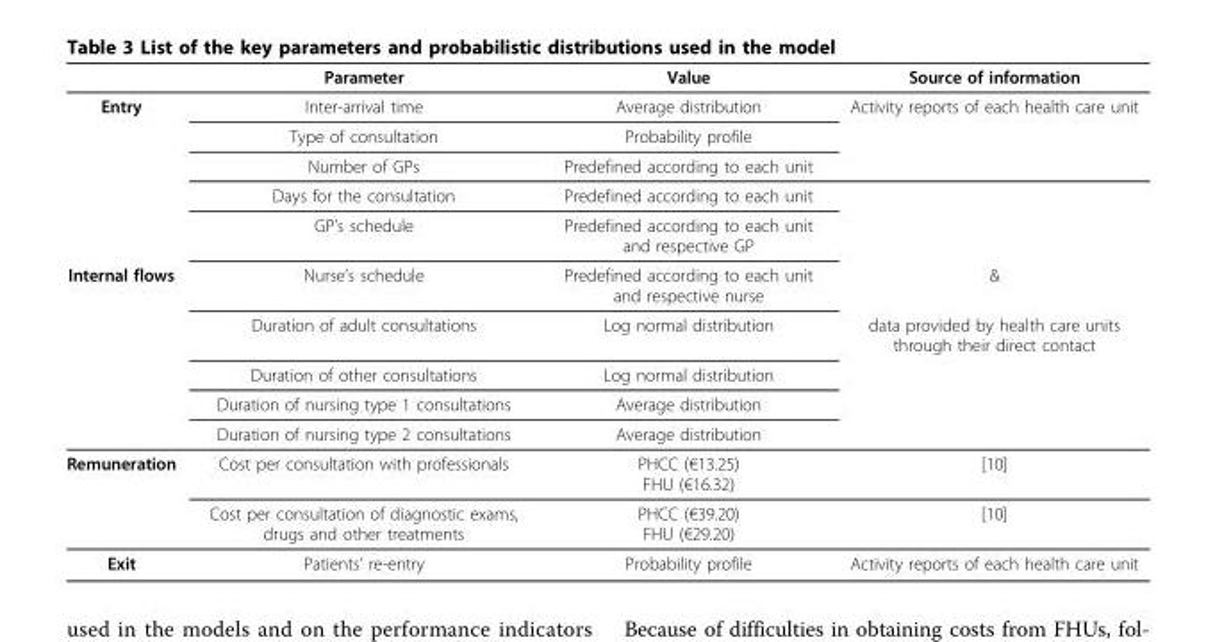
<table><thead><tr><td></td><td>Parameter</td><td>Value</td><td>Source of information</td></tr></thead><tbody><tr><td rowspan="5">Entry</td><td>Inter-arrival time</td><td>Average distribution</td><td>Activity reports of each health care unit</td></tr><tr><td>Type of consultation</td><td>Probability profile</td><td></td></tr><tr><td>Number of GPs</td><td>Predefined according to each unit</td><td></td></tr><tr><td>Days for the consultation</td><td>Predefined according to each unit</td><td></td></tr><tr><td>GP’s schedule</td><td>Predefined according to each unit and respective GP</td><td></td></tr><tr><td rowspan="5">Internal flows</td><td>Nurse’s schedule</td><td>Predefined according to each unit and respective nurse</td><td>&amp;</td></tr><tr><td>Duration of adult consultations</td><td>Log normal distribution</td><td>data provided by health care units through their direct contact</td></tr><tr><td>Duration of other consultations</td><td>Log normal distribution</td><td></td></tr><tr><td>Duration of nursing type 1 consultations</td><td>Average distribution</td><td></td></tr><tr><td>Duration of nursing type 2 consultations</td><td>Average distribution</td><td></td></tr><tr><td rowspan="2">Remuneration</td><td>Cost per consultation with professionals</td><td>PHCC (€13.25) FHU (€16.32)</td><td>[10]</td></tr><tr><td>Cost per consultation of diagnostic exams, drugs and other treatments</td><td>PHCC (€39.20) FHU (€29.20)</td><td>[10]</td></tr><tr><td>Exit</td><td>Patients’ re-entry</td><td>Probability profile</td><td>Activity reports of each health care unit</td></tr></tbody></table>